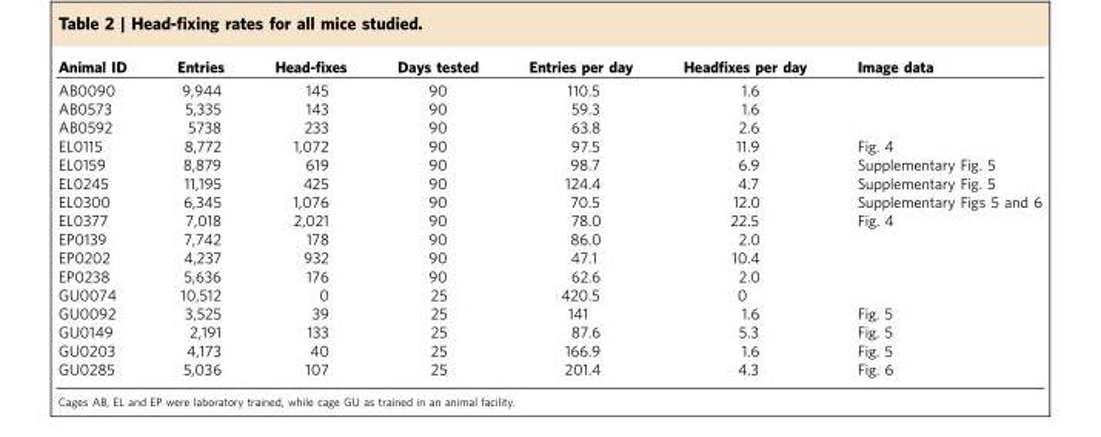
<table><thead><tr><td>Animal ID</td><td>Entries</td><td>Head-fixes</td><td>Days tested</td><td>Entries per day</td><td>Headfixes per day</td><td>Image data</td></tr></thead><tbody><tr><td>AB0090</td><td>9,944</td><td>145</td><td>90</td><td>110.5</td><td>1.6</td><td></td></tr><tr><td>AB0573</td><td>5,335</td><td>143</td><td>90</td><td>59.3</td><td>1.6</td><td></td></tr><tr><td>AB0592</td><td>5738</td><td>233</td><td>90</td><td>63.8</td><td>2.6</td><td></td></tr><tr><td>EL0115</td><td>8,772</td><td>1,072</td><td>90</td><td>97.5</td><td>11.9</td><td>Fig. 4</td></tr><tr><td>EL0159</td><td>8,879</td><td>619</td><td>90</td><td>98.7</td><td>6.9</td><td>Supplementary Fig. 5</td></tr><tr><td>EL0245</td><td>11,195</td><td>425</td><td>90</td><td>124.4</td><td>4.7</td><td>Supplementary Fig. 5</td></tr><tr><td>EL0300</td><td>6,345</td><td>1,076</td><td>90</td><td>70.5</td><td>12.0</td><td>Supplementary Figs 5 and 6</td></tr><tr><td>EL0377</td><td>7,018</td><td>2,021</td><td>90</td><td>78.0</td><td>22.5</td><td>Fig. 4</td></tr><tr><td>EP0139</td><td>7,742</td><td>178</td><td>90</td><td>86.0</td><td>2.0</td><td></td></tr><tr><td>EP0202</td><td>4,237</td><td>932</td><td>90</td><td>47.1</td><td>10.4</td><td></td></tr><tr><td>EP0238</td><td>5,636</td><td>176</td><td>90</td><td>62.6</td><td>2.0</td><td></td></tr><tr><td>GU0074</td><td>10,512</td><td>0</td><td>25</td><td>420.5</td><td>0</td><td></td></tr><tr><td>GU0092</td><td>3,525</td><td>39</td><td>25</td><td>141</td><td>1.6</td><td>Fig. 5</td></tr><tr><td>GU0149</td><td>2,191</td><td>133</td><td>25</td><td>87.6</td><td>5.3</td><td>Fig. 5</td></tr><tr><td>GU0203</td><td>4,173</td><td>40</td><td>25</td><td>166.9</td><td>1.6</td><td>Fig. 5</td></tr><tr><td>GU0285</td><td>5,036</td><td>107</td><td>25</td><td>201.4</td><td>4.3</td><td>Fig. 6</td></tr></tbody></table>